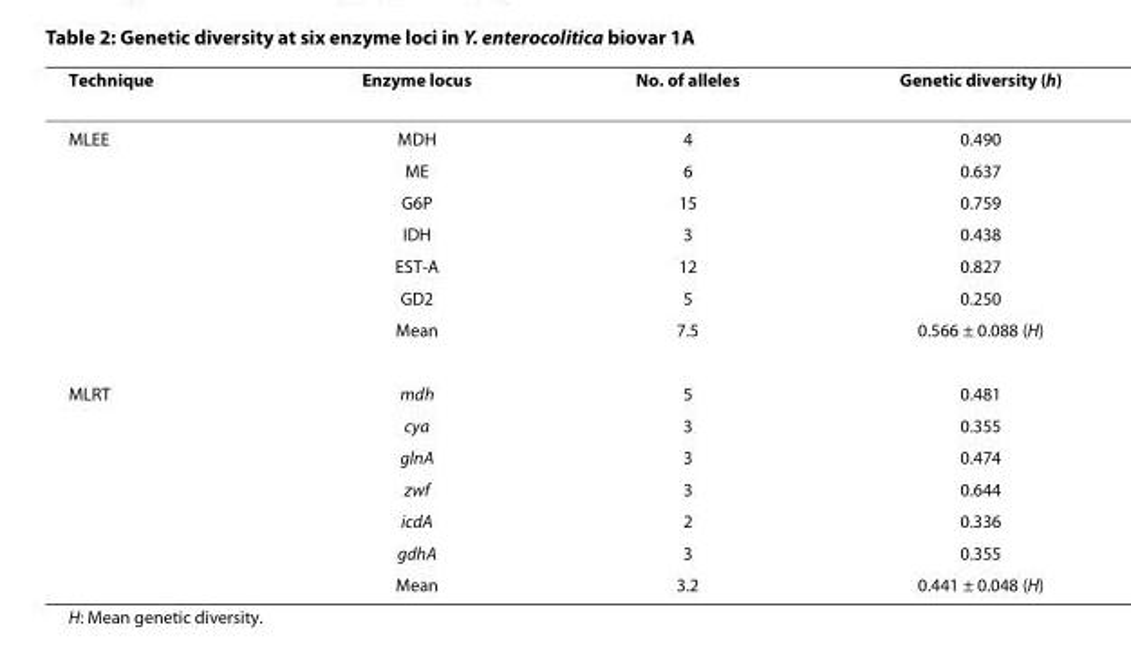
<table><thead><tr><td>Technique</td><td>Enzyme locus</td><td>No. of alleles</td><td>Genetic diversity (h)</td></tr></thead><tbody><tr><td rowspan="7">MLEE</td><td>MDH</td><td>4</td><td>0.490</td></tr><tr><td>ME</td><td>6</td><td>0.637</td></tr><tr><td>G6P</td><td>15</td><td>0.759</td></tr><tr><td>IDH</td><td>3</td><td>0.438</td></tr><tr><td>EST-A</td><td>12</td><td>0.827</td></tr><tr><td>GD2</td><td>5</td><td>0.250</td></tr><tr><td>Mean</td><td>7.5</td><td>0.566 ± 0.088 (H)</td></tr><tr><td rowspan="7">MLRT</td><td>mdh</td><td>5</td><td>0.481</td></tr><tr><td>cya</td><td>3</td><td>0.355</td></tr><tr><td>glnA</td><td>3</td><td>0.474</td></tr><tr><td>zwf</td><td>3</td><td>0.644</td></tr><tr><td>icdA</td><td>2</td><td>0.336</td></tr><tr><td>gdhA</td><td>3</td><td>0.355</td></tr><tr><td>Mean</td><td>3.2</td><td>0.441 ± 0.048 (H)</td></tr></tbody></table>